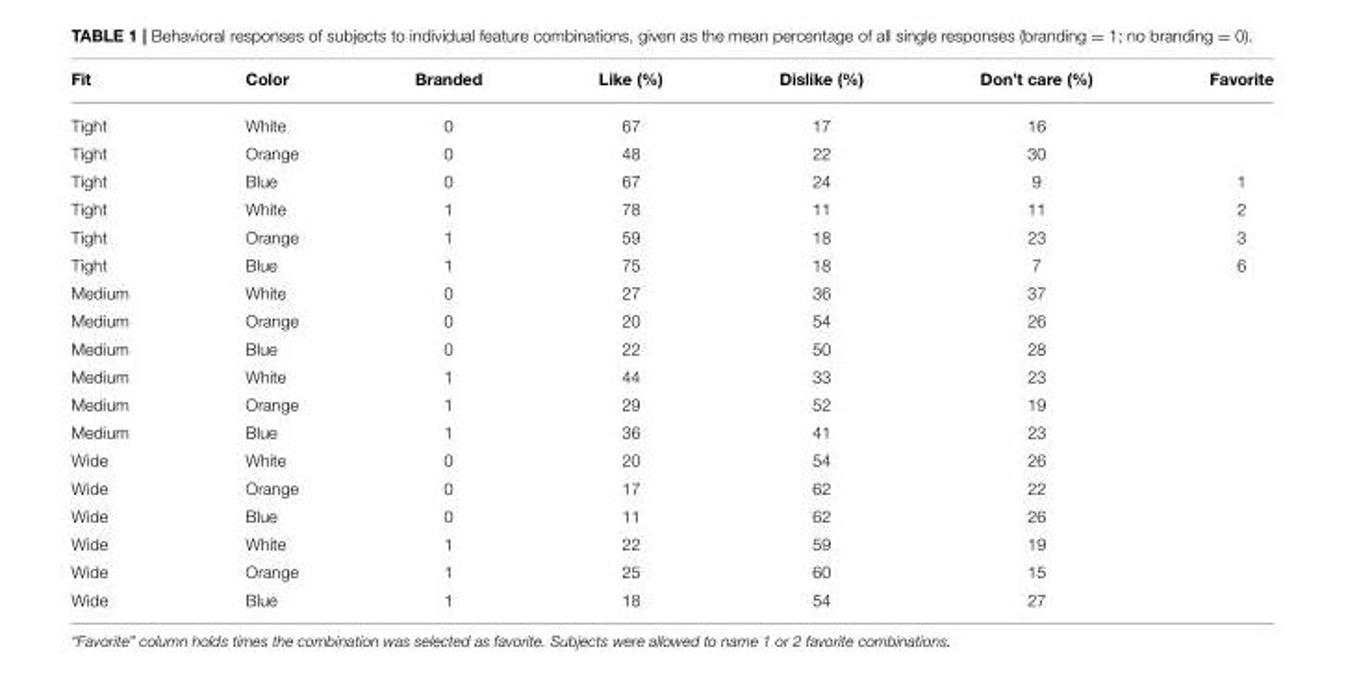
<table><thead><tr><td>Fit</td><td>Color</td><td>Branded</td><td>Like (%)</td><td>Dislike (%)</td><td>Don’t care (%)</td><td>Favorite</td></tr></thead><tbody><tr><td>Tight</td><td>White</td><td>0</td><td>67</td><td>17</td><td>16</td><td></td></tr><tr><td>Tight</td><td>Orange</td><td>0</td><td>48</td><td>22</td><td>30</td><td></td></tr><tr><td>Tight</td><td>Blue</td><td>0</td><td>67</td><td>24</td><td>9</td><td>1</td></tr><tr><td>Tight</td><td>White</td><td>1</td><td>78</td><td>11</td><td>11</td><td>2</td></tr><tr><td>Tight</td><td>Orange</td><td>1</td><td>59</td><td>18</td><td>23</td><td>3</td></tr><tr><td>Tight</td><td>Blue</td><td>1</td><td>75</td><td>18</td><td>7</td><td>6</td></tr><tr><td>Medium</td><td>White</td><td>0</td><td>27</td><td>36</td><td>37</td><td></td></tr><tr><td>Medium</td><td>Orange</td><td>0</td><td>20</td><td>54</td><td>26</td><td></td></tr><tr><td>Medium</td><td>Blue</td><td>0</td><td>22</td><td>50</td><td>28</td><td></td></tr><tr><td>Medium</td><td>White</td><td>1</td><td>44</td><td>33</td><td>23</td><td></td></tr><tr><td>Medium</td><td>Orange</td><td>1</td><td>29</td><td>52</td><td>19</td><td></td></tr><tr><td>Medium</td><td>Blue</td><td>1</td><td>36</td><td>41</td><td>23</td><td></td></tr><tr><td>Wide</td><td>White</td><td>0</td><td>20</td><td>54</td><td>26</td><td></td></tr><tr><td>Wide</td><td>Orange</td><td>0</td><td>17</td><td>62</td><td>22</td><td></td></tr><tr><td>Wide</td><td>Blue</td><td>0</td><td>11</td><td>62</td><td>26</td><td></td></tr><tr><td>Wide</td><td>White</td><td>1</td><td>22</td><td>59</td><td>19</td><td></td></tr><tr><td>Wide</td><td>Orange</td><td>1</td><td>25</td><td>60</td><td>15</td><td></td></tr><tr><td>Wide</td><td>Blue</td><td>1</td><td>18</td><td>54</td><td>27</td><td></td></tr></tbody></table>